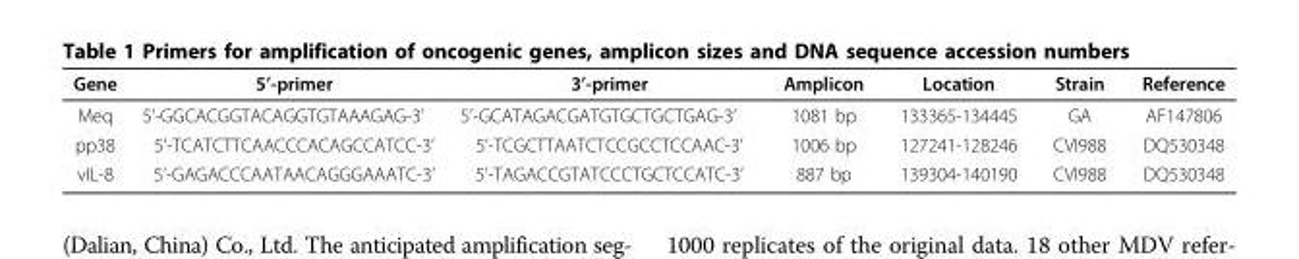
<table><thead><tr><td>Gene</td><td>5’-primer</td><td>3’-primer</td><td>Amplicon</td><td>Location</td><td>Strain</td><td>Reference</td></tr></thead><tbody><tr><td>Meq</td><td>5’-GGCACGGTACAGGTGTAAAGAG-3’</td><td>5’-GCATAGACGATGTGCTGCTGAG-3’</td><td>1081 bp</td><td>133365-134445</td><td>GA</td><td>AF147806</td></tr><tr><td>pp38</td><td>5’-TCATCTTCAACCCACAGCCATCC-3’</td><td>5’-TCGCTTAATCTCCGCCTCCAAC-3’</td><td>1006 bp</td><td>127241-128246</td><td>CVI988</td><td>DQ530348</td></tr><tr><td>vIL-8</td><td>5’-GAGACCCAATAACAGGGAAATC-3’</td><td>5’-TAGACCGTATCCCTGCTCCATC-3’</td><td>887 bp</td><td>139304-140190</td><td>CVI988</td><td>DQ530348</td></tr></tbody></table>